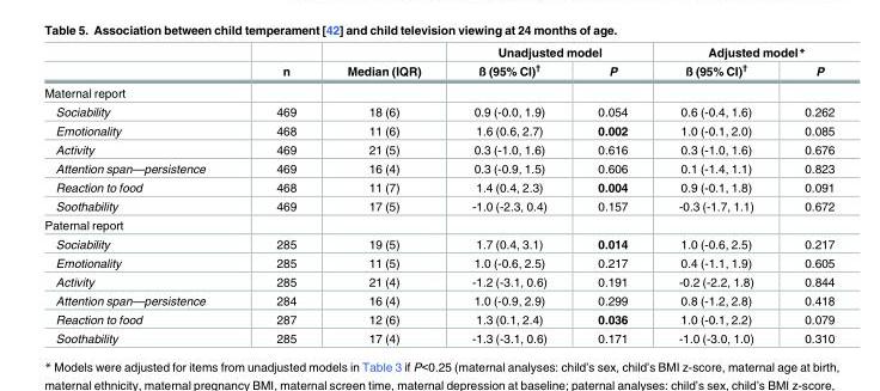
<table><thead><tr><td rowspan="2"></td><td rowspan="2">n</td><td rowspan="2">Median (IQR)</td><td colspan="2">Unadjusted model</td><td colspan="2">Adjusted model*</td></tr><tr><td>ß (95% CI)<sup>†</sup></td><td>P</td><td>ß (95% CI)<sup>†</sup></td><td>P</td></tr></thead><tbody><tr><td colspan="7">Maternal report</td></tr><tr><td>Sociability</td><td>469</td><td>18 (6)</td><td>0.9 (-0.0, 1.9)</td><td>0.054</td><td>0.6 (-0.4, 1.6)</td><td>0.262</td></tr><tr><td>Emotionality</td><td>468</td><td>11 (6)</td><td>1.6 (0.6, 2.7)</td><td>0.002</td><td>1.0 (-0.1, 2.0)</td><td>0.085</td></tr><tr><td>Activity</td><td>469</td><td>21 (5)</td><td>0.3 (-1.0, 1.6)</td><td>0.616</td><td>0.3 (-1.0, 1.6)</td><td>0.676</td></tr><tr><td>Attention span—persistence</td><td>469</td><td>16 (4)</td><td>0.3 (-0.9, 1.5)</td><td>0.606</td><td>0.1 (-1.4, 1.1)</td><td>0.823</td></tr><tr><td>Reaction to food</td><td>468</td><td>11 (7)</td><td>1.4 (0.4, 2.3)</td><td>0.004</td><td>0.9 (-0.1, 1.8)</td><td>0.091</td></tr><tr><td>Soothability</td><td>469</td><td>17 (5)</td><td>-1.0 (-2.3, 0.4)</td><td>0.157</td><td>-0.3 (-1.7, 1.1)</td><td>0.672</td></tr><tr><td colspan="7">Paternal report</td></tr><tr><td>Sociability</td><td>285</td><td>19 (5)</td><td>1.7 (0.4, 3.1)</td><td>0.014</td><td>1.0 (-0.6, 2.5)</td><td>0.217</td></tr><tr><td>Emotionality</td><td>285</td><td>11 (5)</td><td>1.0 (-0.6, 2.5)</td><td>0.217</td><td>0.4 (-1.1, 1.9)</td><td>0.605</td></tr><tr><td>Activity</td><td>285</td><td>21 (4)</td><td>-1.2 (-3.1, 0.6)</td><td>0.191</td><td>-0.2 (-2.2, 1.8)</td><td>0.844</td></tr><tr><td>Attention span—persistence</td><td>284</td><td>16 (4)</td><td>1.0 (-0.9, 2.9)</td><td>0.299</td><td>0.8 (-1.2, 2.8)</td><td>0.418</td></tr><tr><td>Reaction to food</td><td>287</td><td>12 (6)</td><td>1.3 (0.1, 2.4)</td><td>0.036</td><td>1.0 (-0.1, 2.2)</td><td>0.079</td></tr><tr><td>Soothability</td><td>285</td><td>17 (4)</td><td>-1.3 (-3.1, 0.6)</td><td>0.171</td><td>-1.0 (-3.0, 1.0)</td><td>0.310</td></tr></tbody></table>